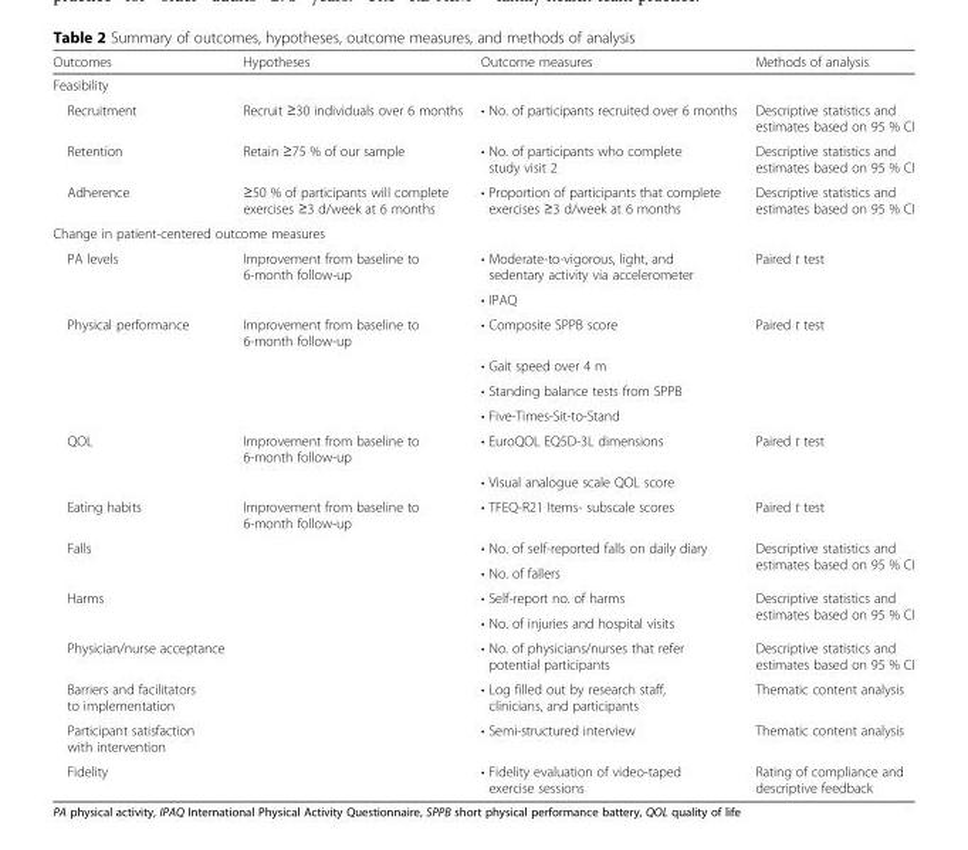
<table><thead><tr><td>Outcomes</td><td>Hypotheses</td><td>Outcome measures</td><td>Methods of analysis</td></tr></thead><tbody><tr><td colspan="4">Feasibility</td></tr><tr><td>Recruitment</td><td>Recruit ≥30 individuals over 6 months</td><td>• No. of participants recruited over 6 months</td><td>Descriptive statistics and estimates based on 95 % CI</td></tr><tr><td>Retention</td><td>Retain ≥75 % of our sample</td><td>• No. of participants who complete study visit 2</td><td>Descriptive statistics and estimates based on 95 % CI</td></tr><tr><td>Adherence</td><td>≥50 % of participants will complete exercises ≥3 d/week at 6 months</td><td>• Proportion of participants that complete exercises ≥3 d/week at 6 months</td><td>Descriptive statistics and estimates based on 95 % CI</td></tr><tr><td colspan="4">Change in patient-centered outcome measures</td></tr><tr><td rowspan="2">PA levels</td><td>Improvement from baseline to 6-month follow-up</td><td>• Moderate-to-vigorous, light, and sedentary activity via accelerometer</td><td>Paired t test</td></tr><tr><td></td><td>• IPAQ</td><td></td></tr><tr><td rowspan="4">Physical performance</td><td>Improvement from baseline to 6-month follow-up</td><td>• Composite SPPB score</td><td>Paired t test</td></tr><tr><td></td><td>• Gait speed over 4 m</td><td></td></tr><tr><td></td><td>• Standing balance tests from SPPB</td><td></td></tr><tr><td></td><td>• Five-Times-Sit-to-Stand</td><td></td></tr><tr><td rowspan="2">QOL</td><td>Improvement from baseline to 6-month follow-up</td><td>• EuroQOL EQ5D-3L dimensions</td><td>Paired t test</td></tr><tr><td></td><td>• Visual analogue scale QOL score</td><td></td></tr><tr><td>Eating habits</td><td>Improvement from baseline to 6-month follow-up</td><td>• TFEQ-R21 Items- subscale scores</td><td>Paired t test</td></tr><tr><td rowspan="2">Falls</td><td rowspan="2"></td><td>• No. of self-reported falls on daily diary</td><td rowspan="2">Descriptive statistics and estimates based on 95 % CI</td></tr><tr><td>• No. of fallers</td></tr><tr><td rowspan="2">Harms</td><td rowspan="2"></td><td>• Self-report no. of harms</td><td rowspan="2">Descriptive statistics and estimates based on 95 % CI</td></tr><tr><td>• No. of injuries and hospital visits</td></tr><tr><td>Physician/nurse acceptance</td><td></td><td>• No. of physicians/nurses that refer potential participants</td><td>Descriptive statistics and estimates based on 95 % CI</td></tr><tr><td>Barriers and facilitators to implementation</td><td></td><td>• Log filled out by research staff, clinicians, and participants</td><td>Thematic content analysis</td></tr><tr><td>Participant satisfaction with intervention</td><td></td><td>• Semi-structured interview</td><td>Thematic content analysis</td></tr><tr><td>Fidelity</td><td></td><td>• Fidelity evaluation of video-taped exercise sessions</td><td>Rating of compliance and descriptive feedback</td></tr></tbody></table>